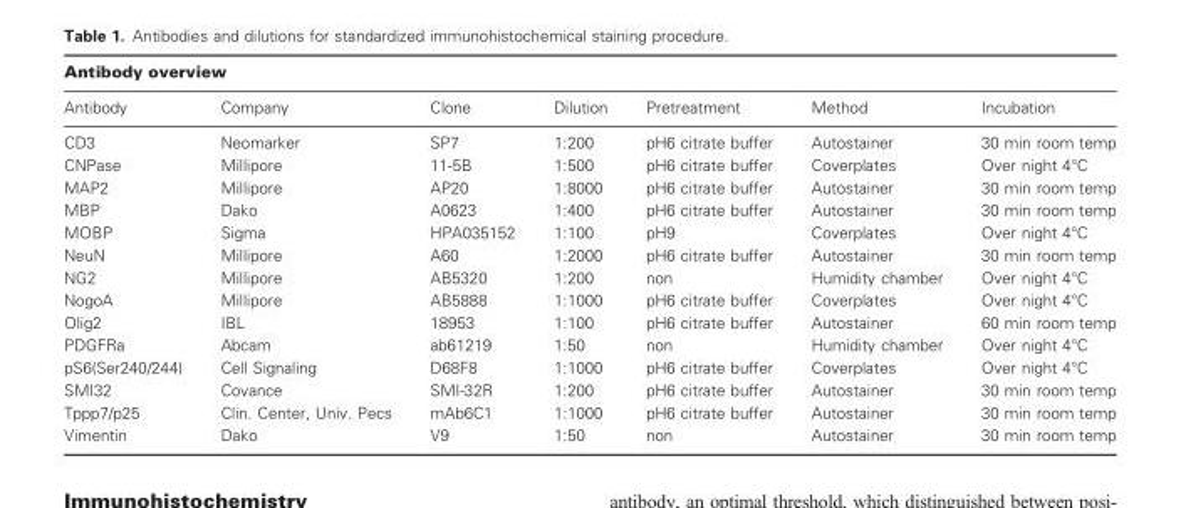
<table><thead><tr><td colspan="7">Antibody overview</td></tr><tr><td>Antibody</td><td>Company</td><td>Clone</td><td>Dilution</td><td>Pretreatment</td><td>Method</td><td>Incubation</td></tr></thead><tbody><tr><td>CD3</td><td>Neomarker</td><td>SP7</td><td>1:200</td><td>pH6 citrate buffer</td><td>Autostainer</td><td>30 min room temp</td></tr><tr><td>CNPase</td><td>Millipore</td><td>11-5B</td><td>1:500</td><td>pH6 citrate buffer</td><td>Coverplates</td><td>Over night 4°C</td></tr><tr><td>MAP2</td><td>Millipore</td><td>AP20</td><td>1:8000</td><td>pH6 citrate buffer</td><td>Autostainer</td><td>30 min room temp</td></tr><tr><td>MBP</td><td>Dako</td><td>A0623</td><td>1:400</td><td>pH6 citrate buffer</td><td>Autostainer</td><td>30 min room temp</td></tr><tr><td>MOBP</td><td>Sigma</td><td>HPA035152</td><td>1:100</td><td>pH9</td><td>Coverplates</td><td>Over night 4°C</td></tr><tr><td>NeuN</td><td>Millipore</td><td>A60</td><td>1:2000</td><td>pH6 citrate buffer</td><td>Autostainer</td><td>30 min room temp</td></tr><tr><td>NG2</td><td>Millipore</td><td>AB5320</td><td>1:200</td><td>non</td><td>Humidity chamber</td><td>Over night 4°C</td></tr><tr><td>NogoA</td><td>Millipore</td><td>AB5888</td><td>1:1000</td><td>pH6 citrate buffer</td><td>Coverplates</td><td>Over night 4°C</td></tr><tr><td>Olig2</td><td>IBL</td><td>18953</td><td>1:100</td><td>pH6 citrate buffer</td><td>Autostainer</td><td>60 min room temp</td></tr><tr><td>PDGFRa</td><td>Abcam</td><td>ab61219</td><td>1:50</td><td>non</td><td>Humidity chamber</td><td>Over night 4°C</td></tr><tr><td>pS6(Ser240/244)</td><td>Cell Signaling</td><td>D68F8</td><td>1:1000</td><td>pH6 citrate buffer</td><td>Coverplates</td><td>Over night 4°C</td></tr><tr><td>SMI32</td><td>Covance</td><td>SMI-32R</td><td>1:200</td><td>pH6 citrate buffer</td><td>Autostainer</td><td>30 min room temp</td></tr><tr><td>Tppp7/p25</td><td>Clin. Center, Univ. Pecs</td><td>mAb6C1</td><td>1:1000</td><td>pH6 citrate buffer</td><td>Autostainer</td><td>30 min room temp</td></tr><tr><td>Vimentin</td><td>Dako</td><td>V9</td><td>1:50</td><td>non</td><td>Autostainer</td><td>30 min room temp</td></tr></tbody></table>